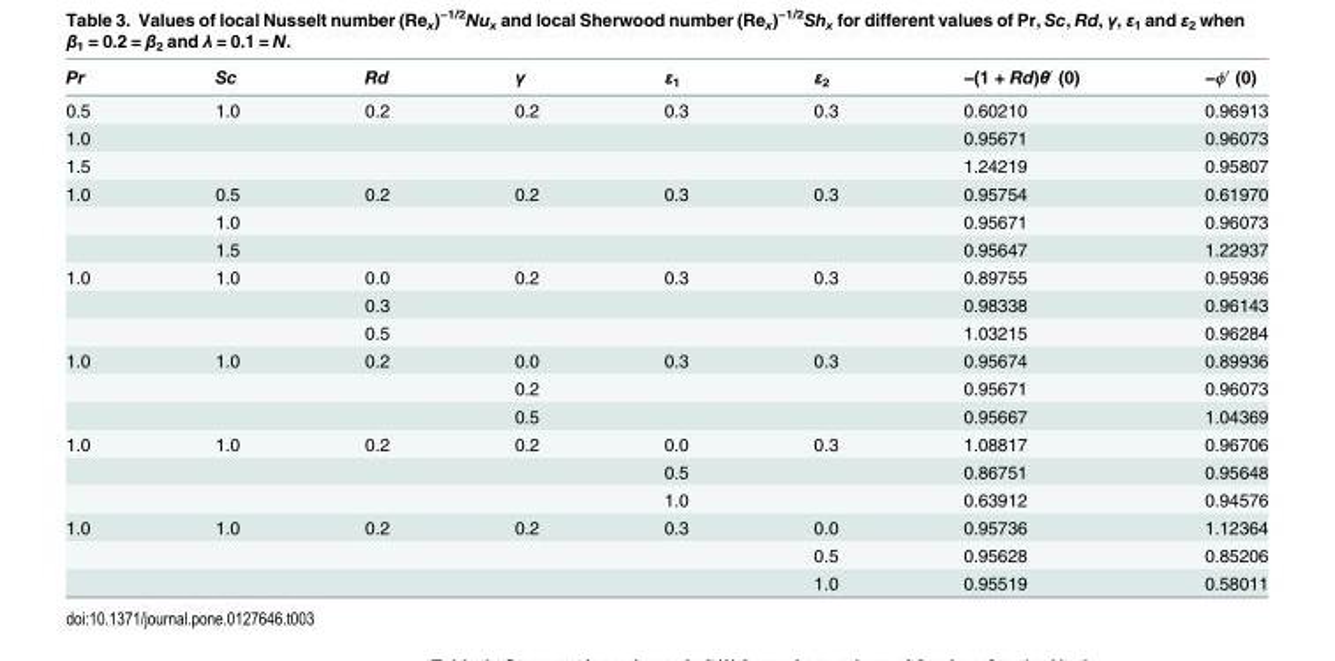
<table><thead><tr><td>Pr</td><td>Sc</td><td>Rd</td><td>γ</td><td>ε<sub>1</sub></td><td>ε<sub>2</sub></td><td>−(1 + Rd)θ′ (0)</td><td>−ϕ′ (0)</td></tr></thead><tbody><tr><td>0.5</td><td>1.0</td><td>0.2</td><td>0.2</td><td>0.3</td><td>0.3</td><td>0.60210</td><td>0.96913</td></tr><tr><td>1.0</td><td></td><td></td><td></td><td></td><td></td><td>0.95671</td><td>0.96073</td></tr><tr><td>1.5</td><td></td><td></td><td></td><td></td><td></td><td>1.24219</td><td>0.95807</td></tr><tr><td rowspan="3">1.0</td><td>0.5</td><td>0.2</td><td>0.2</td><td>0.3</td><td>0.3</td><td>0.95754</td><td>0.61970</td></tr><tr><td>1.0</td><td></td><td></td><td></td><td></td><td>0.95671</td><td>0.96073</td></tr><tr><td>1.5</td><td></td><td></td><td></td><td></td><td>0.95647</td><td>1.22937</td></tr><tr><td rowspan="3">1.0</td><td>1.0</td><td>0.0</td><td>0.2</td><td>0.3</td><td>0.3</td><td>0.89755</td><td>0.95936</td></tr><tr><td></td><td>0.3</td><td></td><td></td><td></td><td>0.98338</td><td>0.96143</td></tr><tr><td></td><td>0.5</td><td></td><td></td><td></td><td>1.03215</td><td>0.96284</td></tr><tr><td rowspan="3">1.0</td><td>1.0</td><td>0.2</td><td>0.0</td><td>0.3</td><td>0.3</td><td>0.95674</td><td>0.89936</td></tr><tr><td></td><td></td><td>0.2</td><td></td><td></td><td>0.95671</td><td>0.96073</td></tr><tr><td></td><td></td><td>0.5</td><td></td><td></td><td>0.95667</td><td>1.04369</td></tr><tr><td rowspan="3">1.0</td><td>1.0</td><td>0.2</td><td>0.2</td><td>0.0</td><td>0.3</td><td>1.08817</td><td>0.96706</td></tr><tr><td></td><td></td><td></td><td>0.5</td><td></td><td>0.86751</td><td>0.95648</td></tr><tr><td></td><td></td><td></td><td>1.0</td><td></td><td>0.63912</td><td>0.94576</td></tr><tr><td rowspan="3">1.0</td><td>1.0</td><td>0.2</td><td>0.2</td><td>0.3</td><td>0.0</td><td>0.95736</td><td>1.12364</td></tr><tr><td></td><td></td><td></td><td></td><td>0.5</td><td>0.95628</td><td>0.85206</td></tr><tr><td></td><td></td><td></td><td></td><td>1.0</td><td>0.95519</td><td>0.58011</td></tr></tbody></table>